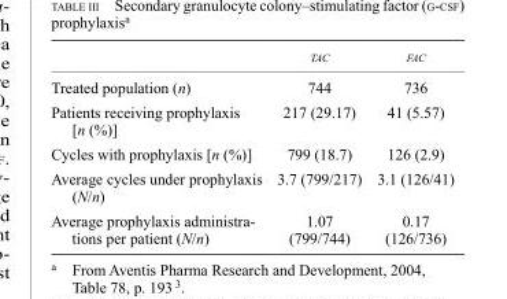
<table><thead><tr><td></td><td>taC</td><td>faC</td></tr></thead><tbody><tr><td>Treated population (n)</td><td>744</td><td>736</td></tr><tr><td>Patients receiving prophylaxis [n (%)]</td><td>217 (29.17)</td><td>41 (5.57)</td></tr><tr><td>Cycles with prophylaxis [n (%)]</td><td>799 (18.7)</td><td>126 (2.9)</td></tr><tr><td>Average cycles under prophylaxis (N/n)</td><td>3.7 (799/217)</td><td>3.1 (126/41)</td></tr><tr><td>Average prophylaxis administra- tions per patient (N/n)</td><td>1.07 (799/744)</td><td>0.17 (126/736)</td></tr></tbody></table>